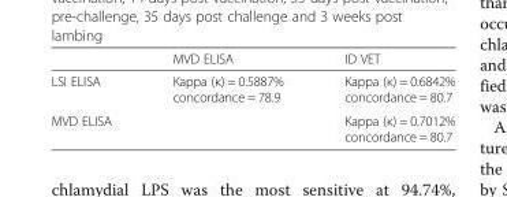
<table><thead><tr><td></td><td>MVD ELISA</td><td>ID VET</td></tr></thead><tbody><tr><td>LSI ELISA</td><td>Kappa (κ) = 0.5887% concordance = 78.9</td><td>Kappa (κ) = 0.6842% concordance = 80.7</td></tr><tr><td>MVD ELISA</td><td></td><td>Kappa (κ) = 0.7012% concordance = 80.7</td></tr></tbody></table>